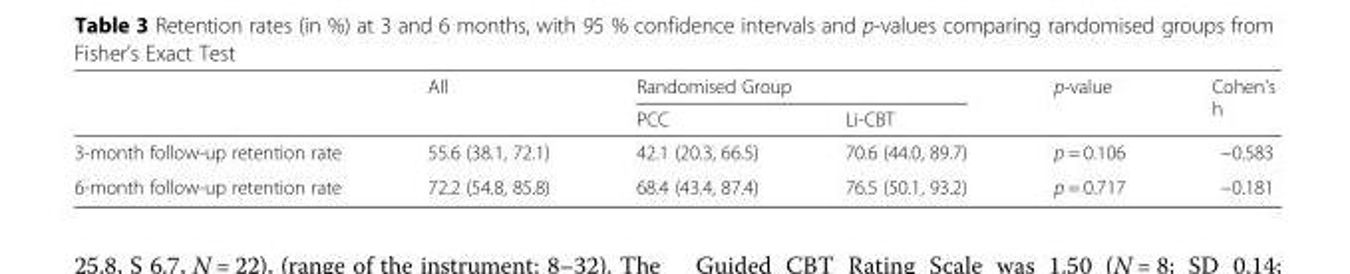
<table><thead><tr><td rowspan="2"></td><td rowspan="2">All</td><td colspan="2">Randomised Group</td><td rowspan="2">p-value</td><td rowspan="2">Cohen&#x27;s h</td></tr><tr><td>PCC</td><td>Li-CBT</td></tr></thead><tbody><tr><td>3-month follow-up retention rate</td><td>55.6 (38.1, 72.1)</td><td>42.1 (20.3, 66.5)</td><td>70.6 (44.0, 89.7)</td><td>p = 0.106</td><td>−0.583</td></tr><tr><td>6-month follow-up retention rate</td><td>72.2 (54.8, 85.8)</td><td>68.4 (43.4, 87.4)</td><td>76.5 (50.1, 93.2)</td><td>p = 0.717</td><td>−0.181</td></tr></tbody></table>